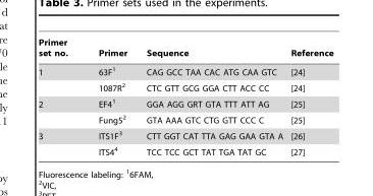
<table><thead><tr><td>Primer set no.</td><td>Primer</td><td>Sequence</td><td>Reference</td></tr></thead><tbody><tr><td rowspan="2">1</td><td>63F<sup>1</sup></td><td>CAG GCC TAA CAC ATG CAA GTC</td><td>[24]</td></tr><tr><td>1087R<sup>2</sup></td><td>CTC GTT GCG GGA CTT ACC CC</td><td>[24]</td></tr><tr><td rowspan="2">2</td><td>EF4<sup>1</sup></td><td>GGA AGG GRT GTA TTT ATT AG</td><td>[25]</td></tr><tr><td>Fung5<sup>2</sup></td><td>GTA AAA GTC CTG GTT CCC C</td><td>[25]</td></tr><tr><td rowspan="2">3</td><td>ITS1F<sup>3</sup></td><td>CTT GGT CAT TTA GAG GAA GTA A</td><td>[26]</td></tr><tr><td>ITS4<sup>4</sup></td><td>TCC TCC GCT TAT TGA TAT GC</td><td>[27]</td></tr></tbody></table>